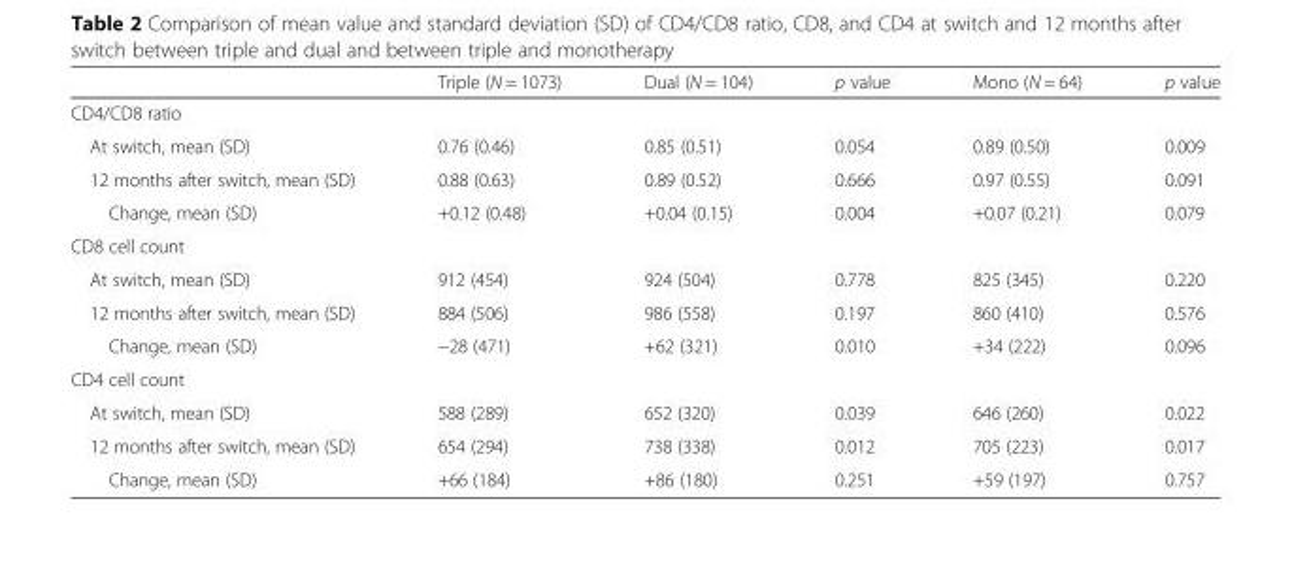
<table><thead><tr><td></td><td>Triple (N = 1073)</td><td>Dual (N = 104)</td><td>p value</td><td>Mono (N = 64)</td><td>p value</td></tr></thead><tbody><tr><td colspan="6">CD4/CD8 ratio</td></tr><tr><td>At switch, mean (SD)</td><td>0.76 (0.46)</td><td>0.85 (0.51)</td><td>0.054</td><td>0.89 (0.50)</td><td>0.009</td></tr><tr><td>12 months after switch, mean (SD)</td><td>0.88 (0.63)</td><td>0.89 (0.52)</td><td>0.666</td><td>0.97 (0.55)</td><td>0.091</td></tr><tr><td>Change, mean (SD)</td><td>+0.12 (0.48)</td><td>+0.04 (0.15)</td><td>0.004</td><td>+0.07 (0.21)</td><td>0.079</td></tr><tr><td colspan="6">CD8 cell count</td></tr><tr><td>At switch, mean (SD)</td><td>912 (454)</td><td>924 (504)</td><td>0.778</td><td>825 (345)</td><td>0.220</td></tr><tr><td>12 months after switch, mean (SD)</td><td>884 (506)</td><td>986 (558)</td><td>0.197</td><td>860 (410)</td><td>0.576</td></tr><tr><td>Change, mean (SD)</td><td>−28 (471)</td><td>+62 (321)</td><td>0.010</td><td>+34 (222)</td><td>0.096</td></tr><tr><td colspan="6">CD4 cell count</td></tr><tr><td>At switch, mean (SD)</td><td>588 (289)</td><td>652 (320)</td><td>0.039</td><td>646 (260)</td><td>0.022</td></tr><tr><td>12 months after switch, mean (SD)</td><td>654 (294)</td><td>738 (338)</td><td>0.012</td><td>705 (223)</td><td>0.017</td></tr><tr><td>Change, mean (SD)</td><td>+66 (184)</td><td>+86 (180)</td><td>0.251</td><td>+59 (197)</td><td>0.757</td></tr></tbody></table>